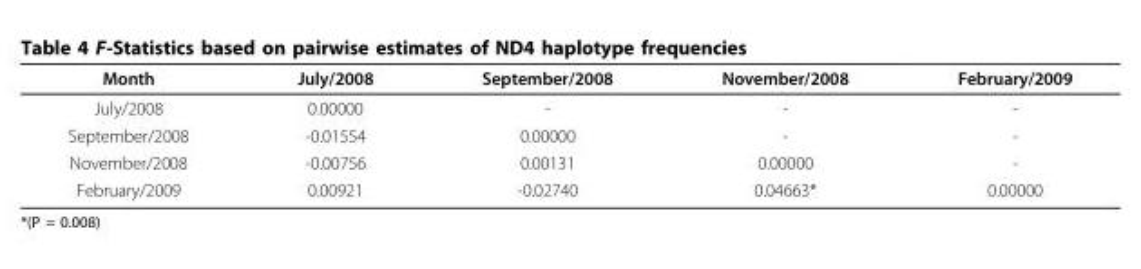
<table><thead><tr><td>Month</td><td>July/2008</td><td>September/2008</td><td>November/2008</td><td>February/2009</td></tr></thead><tbody><tr><td>July/2008</td><td>0.00000</td><td>-</td><td>-</td><td>-</td></tr><tr><td>September/2008</td><td>-0.01554</td><td>0.00000</td><td>-</td><td>-</td></tr><tr><td>November/2008</td><td>-0.00756</td><td>0.00131</td><td>0.00000</td><td>-</td></tr><tr><td>February/2009</td><td>0.00921</td><td>-0.02740</td><td>0.04663*</td><td>0.00000</td></tr></tbody></table>